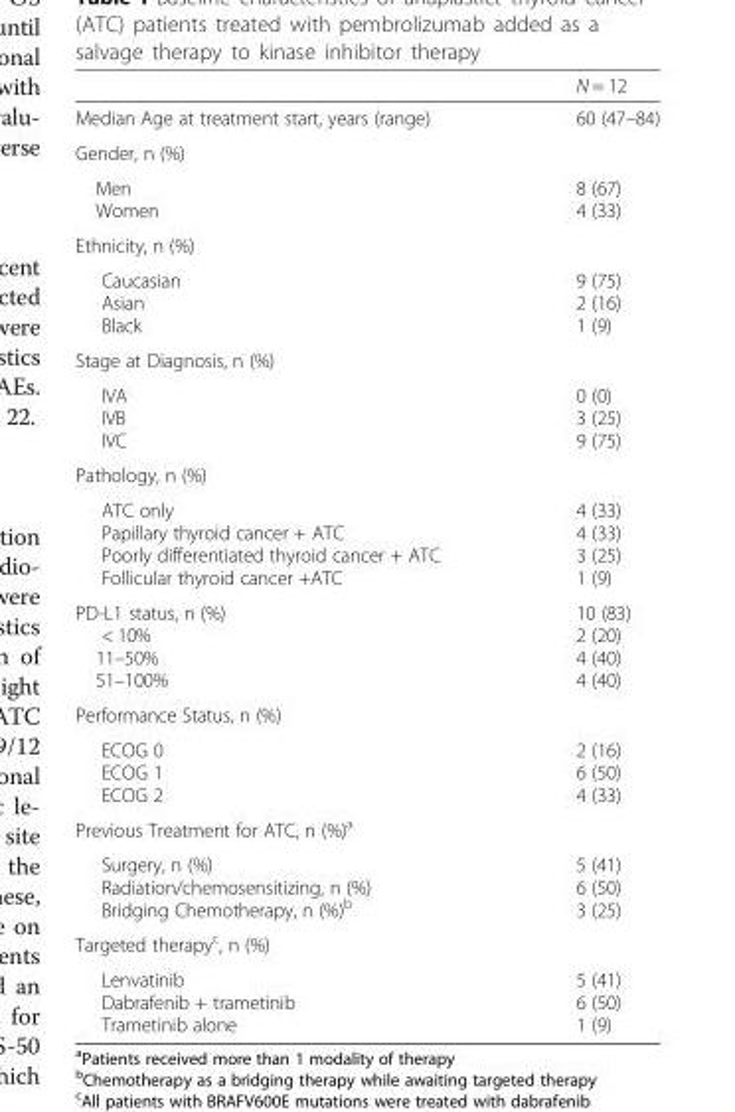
<table><thead><tr><td></td><td>N = 12</td></tr></thead><tbody><tr><td>Median Age at treatment start, years (range)</td><td>60 (47–84)</td></tr><tr><td colspan="2">Gender, n (%)</td></tr><tr><td>Men Women</td><td>8 (67) 4 (33)</td></tr><tr><td colspan="2">Ethnicity, n (%)</td></tr><tr><td>Caucasian Asian Black</td><td>9 (75) 2 (16) 1 (9)</td></tr><tr><td colspan="2">Stage at Diagnosis, n (%)</td></tr><tr><td>IVA IVB IVC</td><td>0 (0) 3 (25) 9 (75)</td></tr><tr><td colspan="2">Pathology, n (%)</td></tr><tr><td>ATC only Papillary thyroid cancer + ATC Poorly differentiated thyroid cancer + ATC Follicular thyroid cancer +ATC</td><td>4 (33) 4 (33) 3 (25) 1 (9)</td></tr><tr><td>PD-L1 status, n (%) &lt; 10% 11–50% 51–100%</td><td>10 (83) 2 (20) 4 (40) 4 (40)</td></tr><tr><td colspan="2">Performance Status, n (%)</td></tr><tr><td>ECOG 0 ECOG 1 ECOG 2</td><td>2 (16) 6 (50) 4 (33)</td></tr><tr><td colspan="2">Previous Treatment for ATC, n (%)<sup>a</sup></td></tr><tr><td>Surgery, n (%) Radiation/chemosensitizing, n (%) Bridging Chemotherapy, n (%)<sup>b</sup></td><td>5 (41) 6 (50) 3 (25)</td></tr><tr><td colspan="2">Targeted therapy<sup>c</sup>, n (%)</td></tr><tr><td>Lenvatinib Dabrafenib + trametinib Trametinib alone</td><td>5 (41) 6 (50) 1 (9)</td></tr></tbody></table>